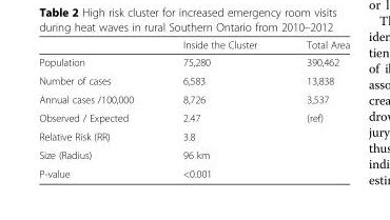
<table><thead><tr><td></td><td>Inside the Cluster</td><td>Total Area</td></tr></thead><tbody><tr><td>Population</td><td>75,280</td><td>390,462</td></tr><tr><td>Number of cases</td><td>6,583</td><td>13,838</td></tr><tr><td>Annual cases /100,000</td><td>8,726</td><td>3,537</td></tr><tr><td>Observed / Expected</td><td>2.47</td><td>(ref)</td></tr><tr><td>Relative Risk (RR)</td><td>3.8</td><td></td></tr><tr><td>Size (Radius)</td><td>96 km</td><td></td></tr><tr><td>P-value</td><td>&lt;0.001</td><td></td></tr></tbody></table>